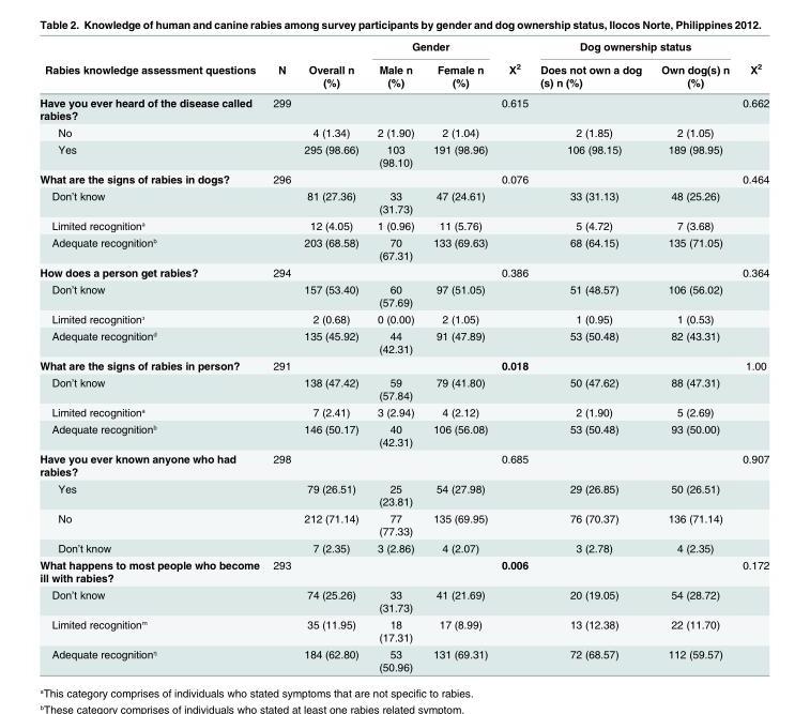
<table><thead><tr><td rowspan="2">Rabies knowledge assessment questions</td><td rowspan="2">N</td><td rowspan="2">Overall n (%)</td><td colspan="2">Gender</td><td rowspan="2">Χ<sup>2</sup></td><td colspan="2">Dog ownership status</td><td rowspan="2">Χ<sup>2</sup></td></tr><tr><td>Male n (%)</td><td>Female n (%)</td><td>Does not own a dog (s) n (%)</td><td>Own dog(s) n (%)</td></tr></thead><tbody><tr><td>Have you ever heard of the disease called rabies?</td><td>299</td><td></td><td></td><td></td><td>0.615</td><td></td><td></td><td>0.662</td></tr><tr><td>No</td><td></td><td>4 (1.34)</td><td>2 (1.90)</td><td>2 (1.04)</td><td></td><td>2 (1.85)</td><td>2 (1.05)</td><td></td></tr><tr><td>Yes</td><td></td><td>295 (98.66)</td><td>103 (98.10)</td><td>191 (98.96)</td><td></td><td>106 (98.15)</td><td>189 (98.95)</td><td></td></tr><tr><td>What are the signs of rabies in dogs?</td><td>296</td><td></td><td></td><td></td><td>0.076</td><td></td><td></td><td>0.464</td></tr><tr><td>Don’t know</td><td></td><td>81 (27.36)</td><td>33 (31.73)</td><td>47 (24.61)</td><td></td><td>33 (31.13)</td><td>48 (25.26)</td><td></td></tr><tr><td>Limited recognitionᵃ</td><td></td><td>12 (4.05)</td><td>1 (0.96)</td><td>11 (5.76)</td><td></td><td>5 (4.72)</td><td>7 (3.68)</td><td></td></tr><tr><td>Adequate recognitionᵇ</td><td></td><td>203 (68.58)</td><td>70 (67.31)</td><td>133 (69.63)</td><td></td><td>68 (64.15)</td><td>135 (71.05)</td><td></td></tr><tr><td>How does a person get rabies?</td><td>294</td><td></td><td></td><td></td><td>0.386</td><td></td><td></td><td>0.364</td></tr><tr><td>Don’t know</td><td></td><td>157 (53.40)</td><td>60 (57.69)</td><td>97 (51.05)</td><td></td><td>51 (48.57)</td><td>106 (56.02)</td><td></td></tr><tr><td>Limited recognitionᵓ</td><td></td><td>2 (0.68)</td><td>0 (0.00)</td><td>2 (1.05)</td><td></td><td>1 (0.95)</td><td>1 (0.53)</td><td></td></tr><tr><td>Adequate recognitionᵈ</td><td></td><td>135 (45.92)</td><td>44 (42.31)</td><td>91 (47.89)</td><td></td><td>53 (50.48)</td><td>82 (43.31)</td><td></td></tr><tr><td>What are the signs of rabies in person?</td><td>291</td><td></td><td></td><td></td><td>0.018</td><td></td><td></td><td>1.00</td></tr><tr><td>Don’t know</td><td></td><td>138 (47.42)</td><td>59 (57.84)</td><td>79 (41.80)</td><td></td><td>50 (47.62)</td><td>88 (47.31)</td><td></td></tr><tr><td>Limited recognitionᵃ</td><td></td><td>7 (2.41)</td><td>3 (2.94)</td><td>4 (2.12)</td><td></td><td>2 (1.90)</td><td>5 (2.69)</td><td></td></tr><tr><td>Adequate recognitionᵇ</td><td></td><td>146 (50.17)</td><td>40 (42.31)</td><td>106 (56.08)</td><td></td><td>53 (50.48)</td><td>93 (50.00)</td><td></td></tr><tr><td>Have you ever known anyone who had rabies?</td><td>298</td><td></td><td></td><td></td><td>0.685</td><td></td><td></td><td>0.907</td></tr><tr><td>Yes</td><td></td><td>79 (26.51)</td><td>25 (23.81)</td><td>54 (27.98)</td><td></td><td>29 (26.85)</td><td>50 (26.51)</td><td></td></tr><tr><td>No</td><td></td><td>212 (71.14)</td><td>77 (77.33)</td><td>135 (69.95)</td><td></td><td>76 (70.37)</td><td>136 (71.14)</td><td></td></tr><tr><td>Don’t know</td><td></td><td>7 (2.35)</td><td>3 (2.86)</td><td>4 (2.07)</td><td></td><td>3 (2.78)</td><td>4 (2.35)</td><td></td></tr><tr><td>What happens to most people who become ill with rabies?</td><td>293</td><td></td><td></td><td></td><td>0.006</td><td></td><td></td><td>0.172</td></tr><tr><td>Don’t know</td><td></td><td>74 (25.26)</td><td>33 (31.73)</td><td>41 (21.69)</td><td></td><td>20 (19.05)</td><td>54 (28.72)</td><td></td></tr><tr><td>Limited recognitionᵐ</td><td></td><td>35 (11.95)</td><td>18 (17.31)</td><td>17 (8.99)</td><td></td><td>13 (12.38)</td><td>22 (11.70)</td><td></td></tr><tr><td>Adequate recognitionᵑ</td><td></td><td>184 (62.80)</td><td>53 (50.96)</td><td>131 (69.31)</td><td></td><td>72 (68.57)</td><td>112 (59.57)</td><td></td></tr></tbody></table>